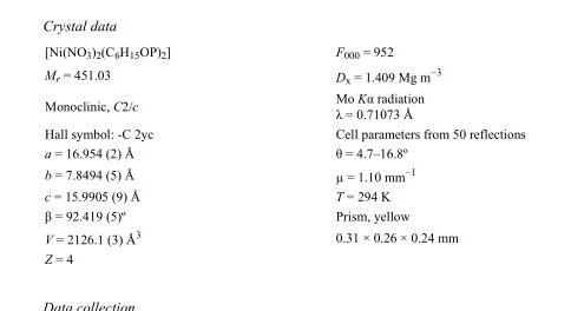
<table><tbody><tr><td>[Ni(NO<sub>3</sub>)<sub>2</sub>(C<sub>6</sub>H<sub>15</sub>OP)<sub>2</sub>]</td><td>F000 = 952</td></tr><tr><td>M<sub>r</sub> = 451.03</td><td>D<sub>x</sub> = 1.409 Mg m<sup>−3</sup></td></tr><tr><td>Monoclinic, C2/c</td><td>Mo Kα radiation λ = 0.71073 Å</td></tr><tr><td>Hall symbol: -C 2yc</td><td>Cell parameters from 50 reflections</td></tr><tr><td>a = 16.954 (2) Å</td><td>θ = 4.7–16.8º</td></tr><tr><td>b = 7.8494 (5) Å</td><td>µ = 1.10 mm<sup>−1</sup></td></tr><tr><td>c = 15.9905 (9) Å</td><td>T = 294 K</td></tr><tr><td>β = 92.419 (5)º</td><td>Prism, yellow</td></tr><tr><td>V = 2126.1 (3) Å<sup>3</sup></td><td>0.31 × 0.26 × 0.24 mm</td></tr><tr><td>Z = 4</td><td></td></tr></tbody></table>